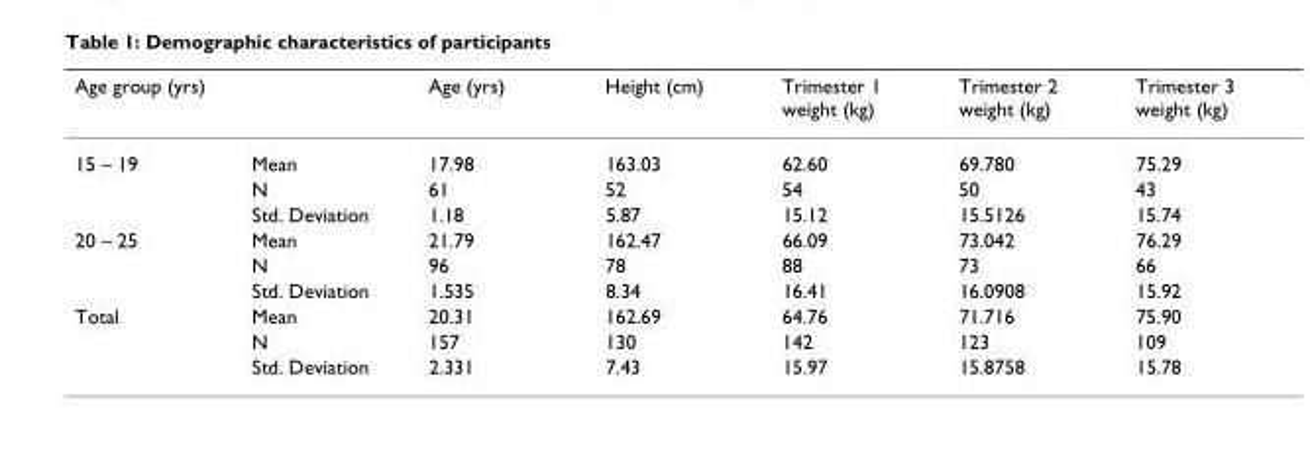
<table><thead><tr><td>Age group (yrs)</td><td></td><td>Age (yrs)</td><td>Height (cm)</td><td>Trimester 1 weight (kg)</td><td>Trimester 2 weight (kg)</td><td>Trimester 3 weight (kg)</td></tr></thead><tbody><tr><td rowspan="3">15 – 19</td><td>Mean</td><td>17.98</td><td>163.03</td><td>62.60</td><td>69.780</td><td>75.29</td></tr><tr><td>N</td><td>61</td><td>52</td><td>54</td><td>50</td><td>43</td></tr><tr><td>Std. Deviation</td><td>1.18</td><td>5.87</td><td>15.12</td><td>15.5126</td><td>15.74</td></tr><tr><td rowspan="3">20 – 25</td><td>Mean</td><td>21.79</td><td>162.47</td><td>66.09</td><td>73.042</td><td>76.29</td></tr><tr><td>N</td><td>96</td><td>78</td><td>88</td><td>73</td><td>66</td></tr><tr><td>Std. Deviation</td><td>1.535</td><td>8.34</td><td>16.41</td><td>16.0908</td><td>15.92</td></tr><tr><td rowspan="3">Total</td><td>Mean</td><td>20.31</td><td>162.69</td><td>64.76</td><td>71.716</td><td>75.90</td></tr><tr><td>N</td><td>157</td><td>130</td><td>142</td><td>123</td><td>109</td></tr><tr><td>Std. Deviation</td><td>2.331</td><td>7.43</td><td>15.97</td><td>15.8758</td><td>15.78</td></tr></tbody></table>